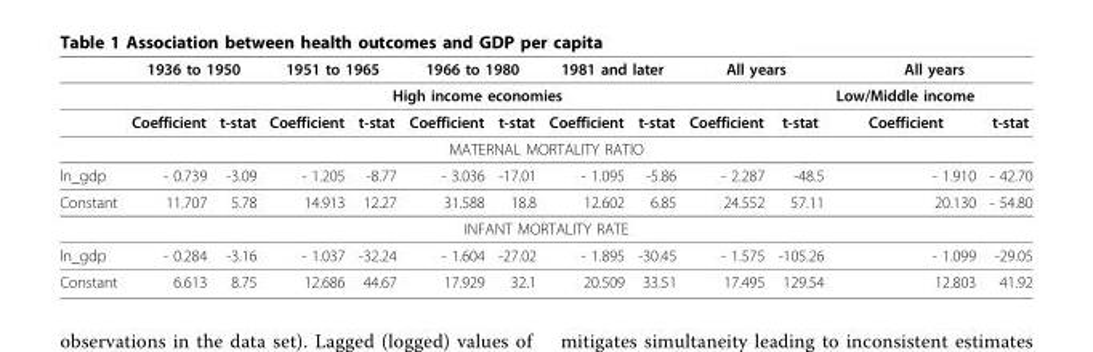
<table><thead><tr><td rowspan="3"></td><td colspan="2">1936 to 1950</td><td colspan="2">1951 to 1965</td><td colspan="2">1966 to 1980</td><td colspan="2">1981 and later</td><td colspan="2">All years</td><td colspan="2">All years</td></tr><tr><td colspan="10">High income economies</td><td rowspan="2">Low/Middle income Coefficient</td><td rowspan="2">t-stat</td></tr><tr><td>Coefficient</td><td>t-stat</td><td>Coefficient</td><td>t-stat</td><td>Coefficient</td><td>t-stat</td><td>Coefficient</td><td>t-stat</td><td>Coefficient</td><td>t-stat</td></tr></thead><tbody><tr><td colspan="13">MATERNAL MORTALITY RATIO</td></tr><tr><td>ln_gdp</td><td>- 0.739</td><td>-3.09</td><td>- 1.205</td><td>-8.77</td><td>- 3.036</td><td>-17.01</td><td>- 1.095</td><td>-5.86</td><td>- 2.287</td><td>-48.5</td><td>- 1.910</td><td>- 42.70</td></tr><tr><td>Constant</td><td>11.707</td><td>5.78</td><td>14.913</td><td>12.27</td><td>31.588</td><td>18.8</td><td>12.602</td><td>6.85</td><td>24.552</td><td>57.11</td><td>20.130</td><td>- 54.80</td></tr><tr><td colspan="13">INFANT MORTALITY RATE</td></tr><tr><td>ln_gdp</td><td>- 0.284</td><td>-3.16</td><td>- 1.037</td><td>-32.24</td><td>- 1.604</td><td>-27.02</td><td>- 1.895</td><td>-30.45</td><td>- 1.575</td><td>-105.26</td><td>- 1.099</td><td>-29.05</td></tr><tr><td>Constant</td><td>6.613</td><td>8.75</td><td>12.686</td><td>44.67</td><td>17.929</td><td>32.1</td><td>20.509</td><td>33.51</td><td>17.495</td><td>129.54</td><td>12.803</td><td>41.92</td></tr></tbody></table>